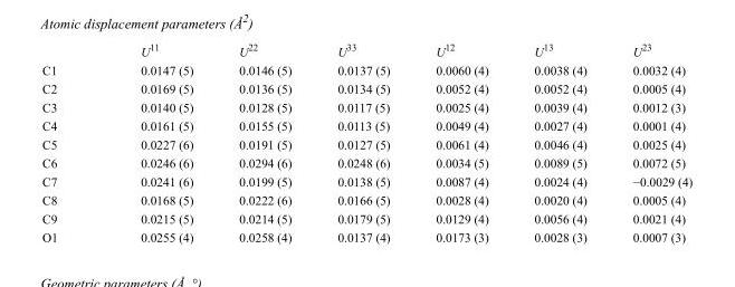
<table><thead><tr><td></td><td>U<sup>11</sup></td><td>U<sup>22</sup></td><td>U<sup>33</sup></td><td>U<sup>12</sup></td><td>U<sup>13</sup></td><td>U<sup>23</sup></td></tr></thead><tbody><tr><td>C1</td><td>0.0147 (5)</td><td>0.0146 (5)</td><td>0.0137 (5)</td><td>0.0060 (4)</td><td>0.0038 (4)</td><td>0.0032 (4)</td></tr><tr><td>C2</td><td>0.0169 (5)</td><td>0.0136 (5)</td><td>0.0134 (5)</td><td>0.0052 (4)</td><td>0.0052 (4)</td><td>0.0005 (4)</td></tr><tr><td>C3</td><td>0.0140 (5)</td><td>0.0128 (5)</td><td>0.0117 (5)</td><td>0.0025 (4)</td><td>0.0039 (4)</td><td>0.0012 (3)</td></tr><tr><td>C4</td><td>0.0161 (5)</td><td>0.0155 (5)</td><td>0.0113 (5)</td><td>0.0049 (4)</td><td>0.0027 (4)</td><td>0.0001 (4)</td></tr><tr><td>C5</td><td>0.0227 (6)</td><td>0.0191 (5)</td><td>0.0127 (5)</td><td>0.0061 (4)</td><td>0.0046 (4)</td><td>0.0025 (4)</td></tr><tr><td>C6</td><td>0.0246 (6)</td><td>0.0294 (6)</td><td>0.0248 (6)</td><td>0.0034 (5)</td><td>0.0089 (5)</td><td>0.0072 (5)</td></tr><tr><td>C7</td><td>0.0241 (6)</td><td>0.0199 (5)</td><td>0.0138 (5)</td><td>0.0087 (4)</td><td>0.0024 (4)</td><td>−0.0029 (4)</td></tr><tr><td>C8</td><td>0.0168 (5)</td><td>0.0222 (6)</td><td>0.0166 (5)</td><td>0.0028 (4)</td><td>0.0020 (4)</td><td>0.0005 (4)</td></tr><tr><td>C9</td><td>0.0215 (5)</td><td>0.0214 (5)</td><td>0.0179 (5)</td><td>0.0129 (4)</td><td>0.0056 (4)</td><td>0.0021 (4)</td></tr><tr><td>O1</td><td>0.0255 (4)</td><td>0.0258 (4)</td><td>0.0137 (4)</td><td>0.0173 (3)</td><td>0.0028 (3)</td><td>0.0007 (3)</td></tr></tbody></table>